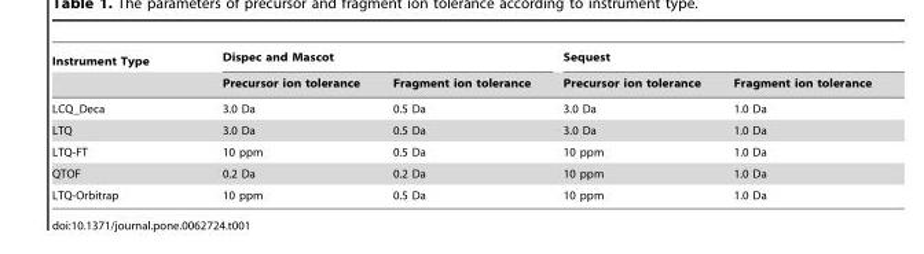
<table><thead><tr><td rowspan="2">Instrument Type</td><td colspan="2">Dispec and Mascot</td><td colspan="2">Sequest</td></tr><tr><td>Precursor ion tolerance</td><td>Fragment ion tolerance</td><td>Precursor ion tolerance</td><td>Fragment ion tolerance</td></tr></thead><tbody><tr><td>LCQ_Deca</td><td>3.0 Da</td><td>0.5 Da</td><td>3.0 Da</td><td>1.0 Da</td></tr><tr><td>LTQ</td><td>3.0 Da</td><td>0.5 Da</td><td>3.0 Da</td><td>1.0 Da</td></tr><tr><td>LTQ-FT</td><td>10 ppm</td><td>0.5 Da</td><td>10 ppm</td><td>1.0 Da</td></tr><tr><td>QTOF</td><td>0.2 Da</td><td>0.2 Da</td><td>10 ppm</td><td>1.0 Da</td></tr><tr><td>LTQ-Orbitrap</td><td>10 ppm</td><td>0.5 Da</td><td>10 ppm</td><td>1.0 Da</td></tr></tbody></table>